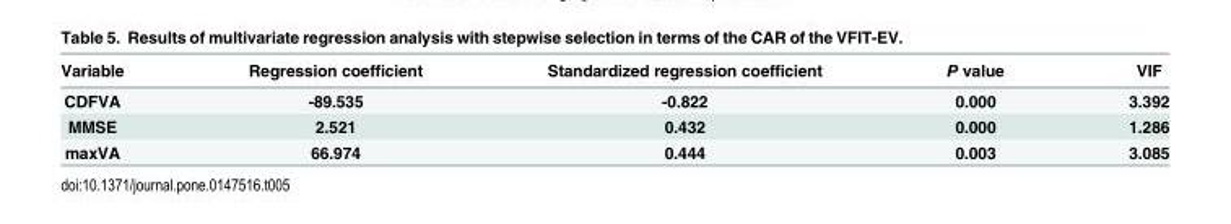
<table><thead><tr><td>Variable</td><td>Regression coefficient</td><td>Standardized regression coefficient</td><td>P value</td><td>VIF</td></tr></thead><tbody><tr><td>CDFVA</td><td>-89.535</td><td>-0.822</td><td>0.000</td><td>3.392</td></tr><tr><td>MMSE</td><td>2.521</td><td>0.432</td><td>0.000</td><td>1.286</td></tr><tr><td>maxVA</td><td>66.974</td><td>0.444</td><td>0.003</td><td>3.085</td></tr></tbody></table>